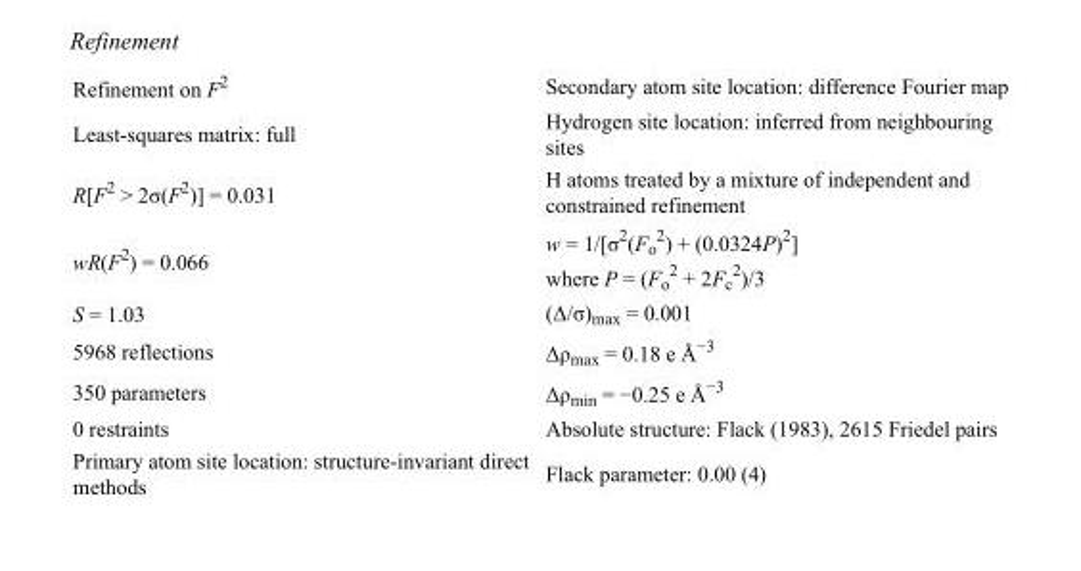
<table><tbody><tr><td>Refinement on F<sup>2</sup></td><td>Secondary atom site location: difference Fourier map</td></tr><tr><td>Least-squares matrix: full</td><td>Hydrogen site location: inferred from neighbouring sites</td></tr><tr><td>R[F<sup>2</sup> &gt; 2σ(F<sup>2</sup>)] = 0.031</td><td>H atoms treated by a mixture of independent and constrained refinement</td></tr><tr><td>wR(F<sup>2</sup>) = 0.066</td><td>w = 1/[σ<sup>2</sup>(F<sub>o</sub> <sup>2</sup>) + (0.0324P)<sup>2</sup>] where P = (F<sub>o</sub> <sup>2</sup> + 2F<sub>c</sub> <sup>2</sup>)/3</td></tr><tr><td>S = 1.03</td><td>(Δ/σ)<sub>max</sub> = 0.001</td></tr><tr><td>5968 reflections</td><td>Δρ<sub>max</sub> = 0.18 e Å<sup>−3</sup></td></tr><tr><td>350 parameters</td><td>Δρ<sub>min</sub> = −0.25 e Å<sup>−3</sup></td></tr><tr><td>0 restraints</td><td>Absolute structure: Flack (1983), 2615 Friedel pairs</td></tr><tr><td>Primary atom site location: structure-invariant direct methods</td><td>Flack parameter: 0.00 (4)</td></tr></tbody></table>